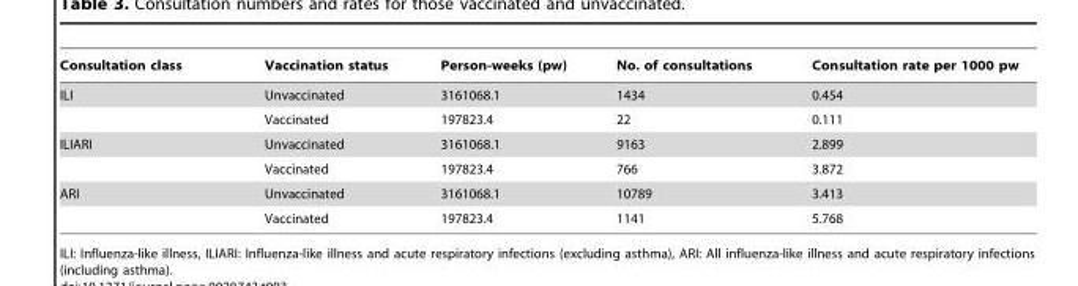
<table><thead><tr><td>Consultation class</td><td>Vaccination status</td><td>Person-weeks (pw)</td><td>No. of consultations</td><td>Consultation rate per 1000 pw</td></tr></thead><tbody><tr><td rowspan="2">ILI</td><td>Unvaccinated</td><td>3161068.1</td><td>1434</td><td>0.454</td></tr><tr><td>Vaccinated</td><td>197823.4</td><td>22</td><td>0.111</td></tr><tr><td rowspan="2">ILIARI</td><td>Unvaccinated</td><td>3161068.1</td><td>9163</td><td>2.899</td></tr><tr><td>Vaccinated</td><td>197823.4</td><td>766</td><td>3.872</td></tr><tr><td rowspan="2">ARI</td><td>Unvaccinated</td><td>3161068.1</td><td>10789</td><td>3.413</td></tr><tr><td>Vaccinated</td><td>197823.4</td><td>1141</td><td>5.768</td></tr></tbody></table>